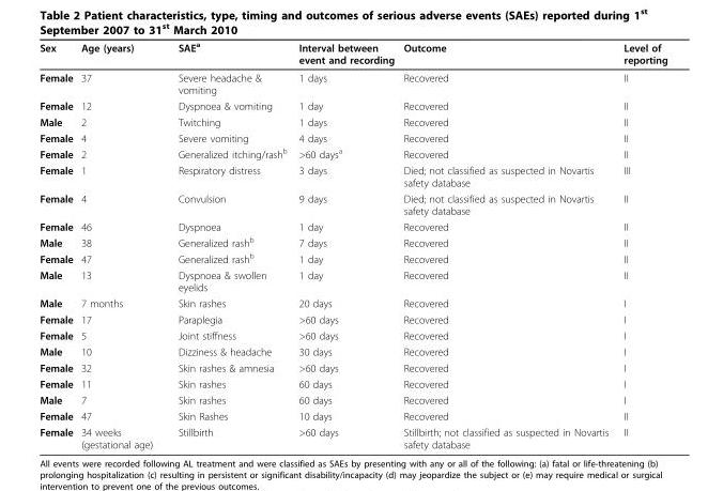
<table><thead><tr><td>Sex</td><td>Age (years)</td><td>SAE<sup>a</sup></td><td>Interval between event and recording</td><td>Outcome</td><td>Level of reporting</td></tr></thead><tbody><tr><td>Female</td><td>37</td><td>Severe headache &amp; vomiting</td><td>1 days</td><td>Recovered</td><td>II</td></tr><tr><td>Female</td><td>12</td><td>Dyspnoea &amp; vomiting</td><td>1 day</td><td>Recovered</td><td>II</td></tr><tr><td>Male</td><td>2</td><td>Twitching</td><td>1 days</td><td>Recovered</td><td>II</td></tr><tr><td>Female</td><td>4</td><td>Severe vomiting</td><td>4 days</td><td>Recovered</td><td>II</td></tr><tr><td>Female</td><td>2</td><td>Generalized itching/rash<sup>b</sup></td><td>&gt;60 days<sup>a</sup></td><td>Recovered</td><td>II</td></tr><tr><td>Female</td><td>1</td><td>Respiratory distress</td><td>3 days</td><td>Died; not classified as suspected in Novartis safety database</td><td>III</td></tr><tr><td>Female</td><td>4</td><td>Convulsion</td><td>9 days</td><td>Died; not classified as suspected in Novartis safety database</td><td>II</td></tr><tr><td>Female</td><td>46</td><td>Dyspnoea</td><td>1 day</td><td>Recovered</td><td>II</td></tr><tr><td>Male</td><td>38</td><td>Generalized rash<sup>b</sup></td><td>7 days</td><td>Recovered</td><td>II</td></tr><tr><td>Female</td><td>47</td><td>Generalized rash<sup>b</sup></td><td>1 day</td><td>Recovered</td><td>II</td></tr><tr><td>Male</td><td>13</td><td>Dyspnoea &amp; swollen eyelids</td><td>1 day</td><td>Recovered</td><td>II</td></tr><tr><td>Male</td><td>7 months</td><td>Skin rashes</td><td>20 days</td><td>Recovered</td><td>I</td></tr><tr><td>Female</td><td>17</td><td>Paraplegia</td><td>&gt;60 days</td><td>Recovered</td><td>I</td></tr><tr><td>Female</td><td>5</td><td>Joint stiffness</td><td>&gt;60 days</td><td>Recovered</td><td>I</td></tr><tr><td>Male</td><td>10</td><td>Dizziness &amp; headache</td><td>30 days</td><td>Recovered</td><td>I</td></tr><tr><td>Female</td><td>32</td><td>Skin rashes &amp; amnesia</td><td>&gt;60 days</td><td>Recovered</td><td>I</td></tr><tr><td>Female</td><td>11</td><td>Skin rashes</td><td>60 days</td><td>Recovered</td><td>I</td></tr><tr><td>Male</td><td>7</td><td>Skin rashes</td><td>60 days</td><td>Recovered</td><td>I</td></tr><tr><td>Female</td><td>47</td><td>Skin Rashes</td><td>10 days</td><td>Recovered</td><td>II</td></tr><tr><td>Female</td><td>34 weeks (gestational age)</td><td>Stillbirth</td><td>&gt;60 days</td><td>Stillbirth; not classified as suspected in Novartis safety database</td><td>II</td></tr></tbody></table>